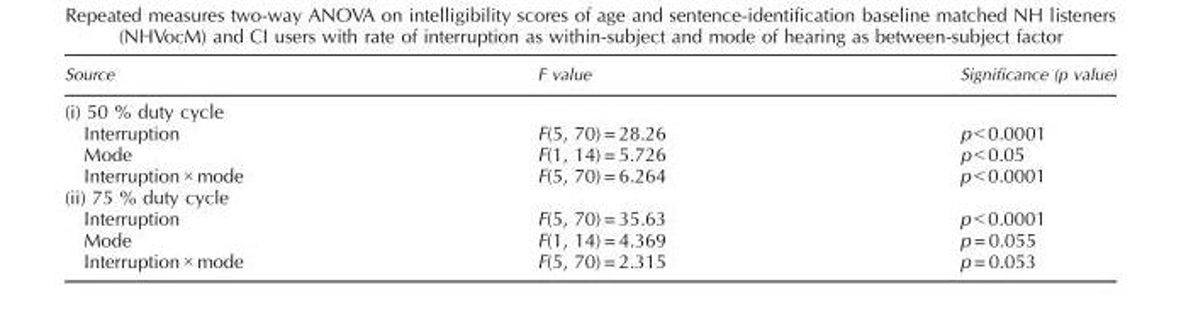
<table><thead><tr><td>Source</td><td>F value</td><td>Significance (p value)</td></tr></thead><tbody><tr><td colspan="3">(i) 50 % duty cycle</td></tr><tr><td>Interruption</td><td>F(5, 70) = 28.26</td><td>p &lt; 0.0001</td></tr><tr><td>Mode</td><td>F(1, 14) = 5.726</td><td>p &lt; 0.05</td></tr><tr><td>Interruption × mode</td><td>F(5, 70) = 6.264</td><td>p &lt; 0.0001</td></tr><tr><td colspan="3">(ii) 75 % duty cycle</td></tr><tr><td>Interruption</td><td>F(5, 70) = 35.63</td><td>p &lt; 0.0001</td></tr><tr><td>Mode</td><td>F(1, 14) = 4.369</td><td>p = 0.055</td></tr><tr><td>Interruption × mode</td><td>F(5, 70) = 2.315</td><td>p = 0.053</td></tr></tbody></table>